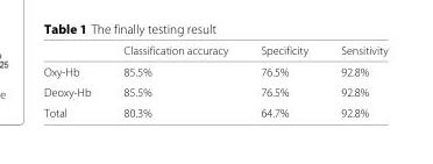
<table><thead><tr><td></td><td>Classification accuracy</td><td>Specificity</td><td>Sensitivity</td></tr></thead><tbody><tr><td>Oxy-Hb</td><td>85.5%</td><td>76.5%</td><td>92.8%</td></tr><tr><td>Deoxy-Hb</td><td>85.5%</td><td>76.5%</td><td>92.8%</td></tr><tr><td>Total</td><td>80.3%</td><td>64.7%</td><td>92.8%</td></tr></tbody></table>